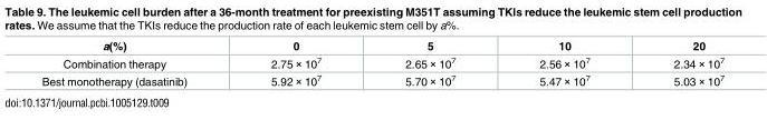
<table><thead><tr><td>a(%)</td><td>0</td><td>5</td><td>10</td><td>20</td></tr></thead><tbody><tr><td>Combination therapy</td><td>2.75 × 10<sup>7</sup></td><td>2.65 × 10<sup>7</sup></td><td>2.56 × 10<sup>7</sup></td><td>2.34 × 10<sup>7</sup></td></tr><tr><td>Best monotherapy (dasatinib)</td><td>5.92 × 10<sup>7</sup></td><td>5.70 × 10<sup>7</sup></td><td>5.47 × 10<sup>7</sup></td><td>5.03 × 10<sup>7</sup></td></tr></tbody></table>